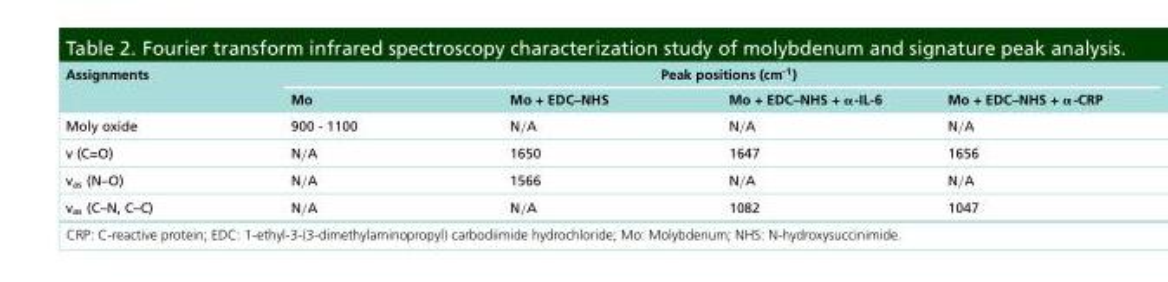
<table><thead><tr><td rowspan="2">Assignments</td><td colspan="4">Peak positions (cm<sup>-1</sup>)</td></tr><tr><td>Mo</td><td>Mo + EDC–NHS</td><td>Mo + EDC–NHS + α-IL-6</td><td>Mo + EDC–NHS + α-CRP</td></tr></thead><tbody><tr><td>Moly oxide</td><td>900 - 1100</td><td>N/A</td><td>N/A</td><td>N/A</td></tr><tr><td>v (C=O)</td><td>N/A</td><td>1650</td><td>1647</td><td>1656</td></tr><tr><td>v<sub>as</sub> (N–O)</td><td>N/A</td><td>1566</td><td>N/A</td><td>N/A</td></tr><tr><td>v<sub>as</sub> (C–N, C–C)</td><td>N/A</td><td>N/A</td><td>1082</td><td>1047</td></tr></tbody></table>